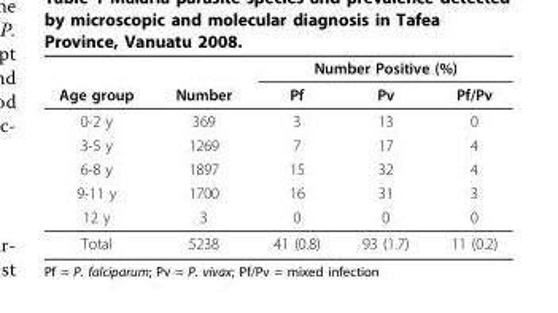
<table><thead><tr><td rowspan="2">Age group</td><td rowspan="2">Number</td><td colspan="3">Number Positive (%)</td></tr><tr><td>Pf</td><td>Pv</td><td>Pf/Pv</td></tr></thead><tbody><tr><td>0-2 y</td><td>369</td><td>3</td><td>13</td><td>0</td></tr><tr><td>3-5 y</td><td>1269</td><td>7</td><td>17</td><td>4</td></tr><tr><td>6-8 y</td><td>1897</td><td>15</td><td>32</td><td>4</td></tr><tr><td>9-11 y</td><td>1700</td><td>16</td><td>31</td><td>3</td></tr><tr><td>12 y</td><td>3</td><td>0</td><td>0</td><td>0</td></tr><tr><td>Total</td><td>5238</td><td>41 (0.8)</td><td>93 (1.7)</td><td>11 (0.2)</td></tr></tbody></table>